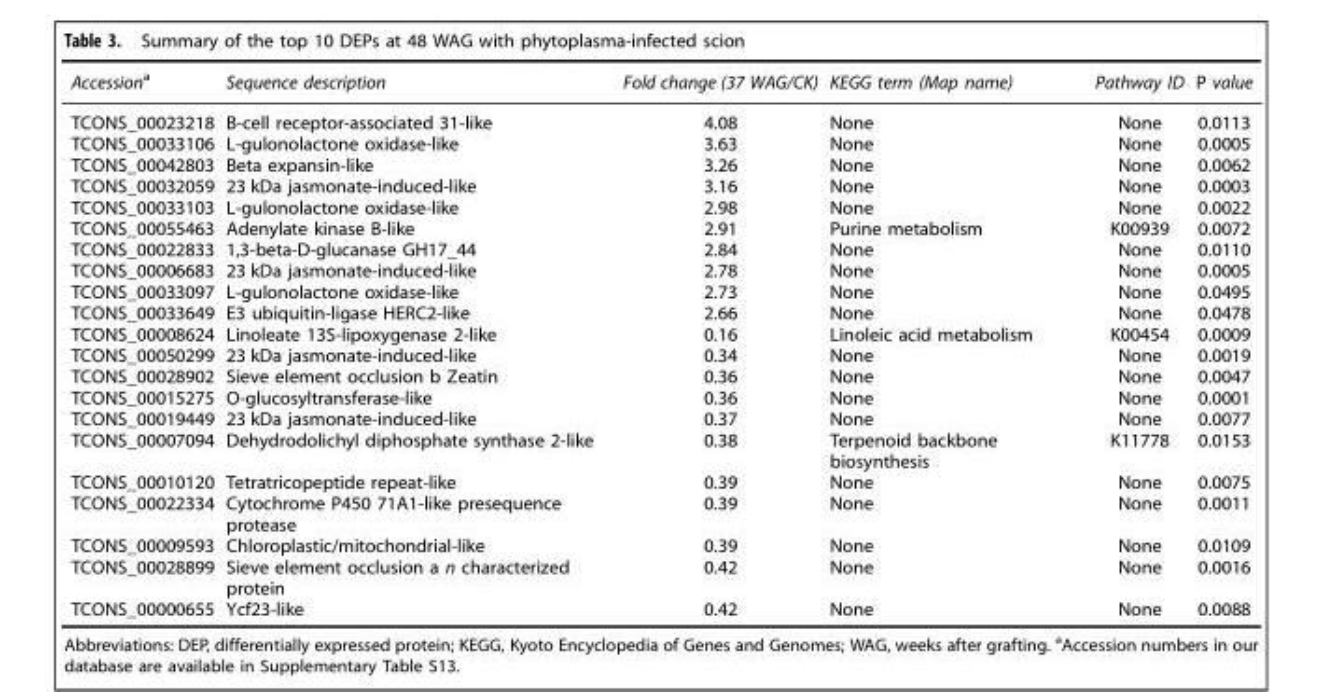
<table><thead><tr><td>Accession<sup>a</sup></td><td>Sequence description</td><td>Fold change (37 WAG/CK)</td><td>KEGG term (Map name)</td><td>Pathway ID</td><td>P value</td></tr></thead><tbody><tr><td>TCONS_00023218</td><td>B-cell receptor-associated 31-like</td><td>4.08</td><td>None</td><td>None</td><td>0.0113</td></tr><tr><td>TCONS_00033106</td><td>L-gulonolactone oxidase-like</td><td>3.63</td><td>None</td><td>None</td><td>0.0005</td></tr><tr><td>TCONS_00042803</td><td>Beta expansin-like</td><td>3.26</td><td>None</td><td>None</td><td>0.0062</td></tr><tr><td>TCONS_00032059</td><td>23 kDa jasmonate-induced-like</td><td>3.16</td><td>None</td><td>None</td><td>0.0003</td></tr><tr><td>TCONS_00033103</td><td>L-gulonolactone oxidase-like</td><td>2.98</td><td>None</td><td>None</td><td>0.0022</td></tr><tr><td>TCONS_00055463</td><td>Adenylate kinase B-like</td><td>2.91</td><td>Purine metabolism</td><td>K00939</td><td>0.0072</td></tr><tr><td>TCONS_00022833</td><td>1,3-beta-D-glucanase GH17_44</td><td>2.84</td><td>None</td><td>None</td><td>0.0110</td></tr><tr><td>TCONS_00006683</td><td>23 kDa jasmonate-induced-like</td><td>2.78</td><td>None</td><td>None</td><td>0.0005</td></tr><tr><td>TCONS_00033097</td><td>L-gulonolactone oxidase-like</td><td>2.73</td><td>None</td><td>None</td><td>0.0495</td></tr><tr><td>TCONS_00033649</td><td>E3 ubiquitin-ligase HERC2-like</td><td>2.66</td><td>None</td><td>None</td><td>0.0478</td></tr><tr><td>TCONS_00008624</td><td>Linoleate 13S-lipoxygenase 2-like</td><td>0.16</td><td>Linoleic acid metabolism</td><td>K00454</td><td>0.0009</td></tr><tr><td>TCONS_00050299</td><td>23 kDa jasmonate-induced-like</td><td>0.34</td><td>None</td><td>None</td><td>0.0019</td></tr><tr><td>TCONS_00028902</td><td>Sieve element occlusion b Zeatin</td><td>0.36</td><td>None</td><td>None</td><td>0.0047</td></tr><tr><td>TCONS_00015275</td><td>O-glucosyltransferase-like</td><td>0.36</td><td>None</td><td>None</td><td>0.0001</td></tr><tr><td>TCONS_00019449</td><td>23 kDa jasmonate-induced-like</td><td>0.37</td><td>None</td><td>None</td><td>0.0077</td></tr><tr><td>TCONS_00007094</td><td>Dehydrodolichyl diphosphate synthase 2-like</td><td>0.38</td><td>Terpenoid backbone biosynthesis</td><td>K11778</td><td>0.0153</td></tr><tr><td>TCONS_00010120</td><td>Tetratricopeptide repeat-like</td><td>0.39</td><td>None</td><td>None</td><td>0.0075</td></tr><tr><td>TCONS_00022334</td><td>Cytochrome P450 71A1-like presequence protease</td><td>0.39</td><td>None</td><td>None</td><td>0.0011</td></tr><tr><td>TCONS_00009593</td><td>Chloroplastic/mitochondrial-like</td><td>0.39</td><td>None</td><td>None</td><td>0.0109</td></tr><tr><td>TCONS_00028899</td><td>Sieve element occlusion a n characterized protein</td><td>0.42</td><td>None</td><td>None</td><td>0.0016</td></tr><tr><td>TCONS_00000655</td><td>Ycf23-like</td><td>0.42</td><td>None</td><td>None</td><td>0.0088</td></tr></tbody></table>